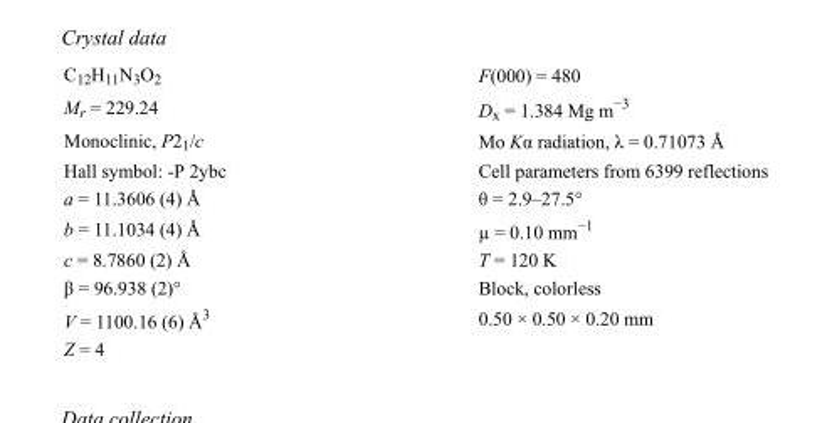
<table><tbody><tr><td>C<sub>12</sub>H<sub>11</sub>N<sub>3</sub>O<sub>2</sub></td><td>F(000) = 480</td></tr><tr><td>M<sub>r</sub> = 229.24</td><td>D<sub>x</sub> = 1.384 Mg m<sup>−3</sup></td></tr><tr><td>Monoclinic, P2<sub>1</sub>/c</td><td>Mo Kα radiation, λ = 0.71073 Å</td></tr><tr><td>Hall symbol: -P 2ybc</td><td>Cell parameters from 6399 reflections</td></tr><tr><td>a = 11.3606 (4) Å</td><td>θ = 2.9–27.5°</td></tr><tr><td>b = 11.1034 (4) Å</td><td>µ = 0.10 mm<sup>−1</sup></td></tr><tr><td>c = 8.7860 (2) Å</td><td>T = 120 K</td></tr><tr><td>β = 96.938 (2)°</td><td>Block, colorless</td></tr><tr><td>V = 1100.16 (6) Å<sup>3</sup></td><td>0.50 × 0.50 × 0.20 mm</td></tr><tr><td>Z = 4</td><td></td></tr></tbody></table>